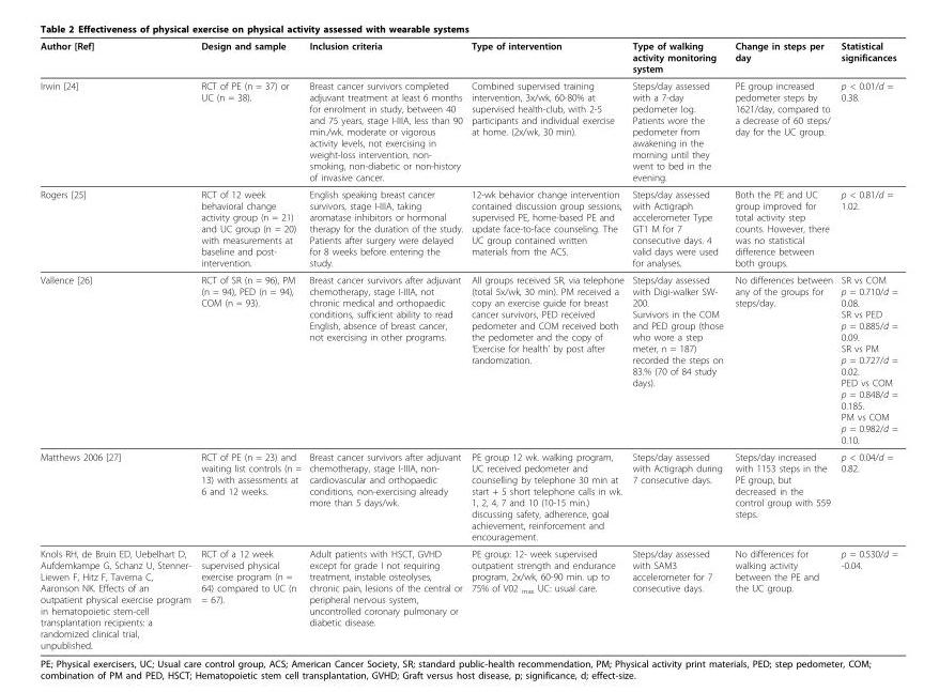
<table><thead><tr><td>Author [Ref]</td><td>Design and sample</td><td>Inclusion criteria</td><td>Type of intervention</td><td>Type of walking activity monitoring system</td><td>Change in steps per day</td><td>Statistical significances</td></tr></thead><tbody><tr><td>Irwin [24]</td><td>RCT of PE (n = 37) or UC (n = 38).</td><td>Breast cancer survivors completed adjuvant treatment at least 6 months for enrolment in study, between 40 and 75 years, stage I-IIIA, less than 90 min./wk. moderate or vigorous activity levels, not exercising in weight-loss intervention, non- smoking, non-diabetic or non-history of invasive cancer.</td><td>Combined supervised training intervention, 3x/wk, 60-80% at supervised health-club, with 2-5 participants and individual exercise at home. (2x/wk, 30 min).</td><td>Steps/day assessed with a 7-day pedometer log. Patients wore the pedometer from awakening in the morning until they went to bed in the evening.</td><td>PE group increased pedometer steps by 1621/day, compared to a decrease of 60 steps/ day for the UC group.</td><td>p &lt; 0.01/d = 0.38.</td></tr><tr><td>Rogers [25]</td><td>RCT of 12 week behavioral change activity group (n = 21) and UC group (n = 20) with measurements at baseline and post- intervention.</td><td>English speaking breast cancer survivors, stage I-IIIA, taking aromatase inhibitors or hormonal therapy for the duration of the study. Patients after surgery were delayed for 8 weeks before entering the study.</td><td>12-wk behavior change intervention contained discussion group sessions, supervised PE, home-based PE and update face-to-face counseling. The UC group contained written materials from the ACS.</td><td>Steps/day assessed with Actigraph accelerometer Type GT1 M for 7 consecutive days. 4 valid days were used for analyses.</td><td>Both the PE and UC group improved for total activity step counts. However, there was no statistical difference between both groups.</td><td>p &lt; 0.81/d = 1.02.</td></tr><tr><td>Vallence [26]</td><td>RCT of SR (n = 96), PM (n = 94), PED (n = 94), COM (n = 93).</td><td>Breast cancer survivors after adjuvant chemotherapy, stage I-IIIA, not chronic medical and orthopaedic conditions, sufficient ability to read English, absence of breast cancer, not exercising in other programs.</td><td>All groups received SR, via telephone (total 5x/wk, 30 min). PM received a copy an exercise guide for breast cancer survivors, PED received pedometer and COM received both the pedometer and the copy of ‘Exercise for health’ by post after randomization.</td><td>Steps/day assessed with Digi-walker SW- 200. Survivors in the COM and PED group (those who wore a step meter, n = 187) recorded the steps on 83.% (70 of 84 study days).</td><td>No differences between any of the groups for steps/day.</td><td>SR vs COM p = 0.710/d = 0.08. SR vs PED p = 0.885/d = 0.09. SR vs PM p = 0.727/d = 0.02. PED vs COM p = 0.848/d = 0.185. PM vs COM p = 0.982/d = 0.10.</td></tr><tr><td>Matthews 2006 [27]</td><td>RCT of PE (n = 23) and waiting list controls (n = 13) with assessments at 6 and 12 weeks.</td><td>Breast cancer survivors after adjuvant chemotherapy, stage I-IIIA, non- cardiovascular and orthopaedic conditions, non-exercising already more than 5 days/wk.</td><td>PE group 12 wk. walking program, UC received pedometer and counselling by telephone 30 min at start + 5 short telephone calls in wk. 1, 2, 4, 7 and 10 (10-15 min.) discussing safety, adherence, goal achievement, reinforcement and encouragement.</td><td>Steps/day assessed with Actigraph during 7 consecutive days.</td><td>Steps/day increased with 1153 steps in the PE group, but decreased in the control group with 559 steps.</td><td>p &lt; 0.04/d = 0.82.</td></tr><tr><td>Knols RH, de Bruin ED, Uebelhart D, Aufdemkampe G, Schanz U, Stenner- Liewen F, Hitz F, Taverna C, Aaronson NK. Effects of an outpatient physical exercise program in hematopoietic stem-cell transplantation recipients: a randomized clinical trial, unpublished.</td><td>RCT of a 12 week supervised physical exercise program (n = 64) compared to UC (n = 67).</td><td>Adult patients with HSCT, GVHD except for grade I not requiring treatment, instable osteolyses, chronic pain, lesions of the central or peripheral nervous system, uncontrolled coronary pulmonary or diabetic disease.</td><td>PE group: 12- week supervised outpatient strength and endurance program, 2x/wk, 60-90 min. up to 75% of V02 <sub>max</sub> UC: usual care.</td><td>Steps/day assessed with SAM3 accelerometer for 7 consecutive days.</td><td>No differences for walking activity between the PE and the UC group.</td><td>p = 0.530/d = -0.04.</td></tr></tbody></table>